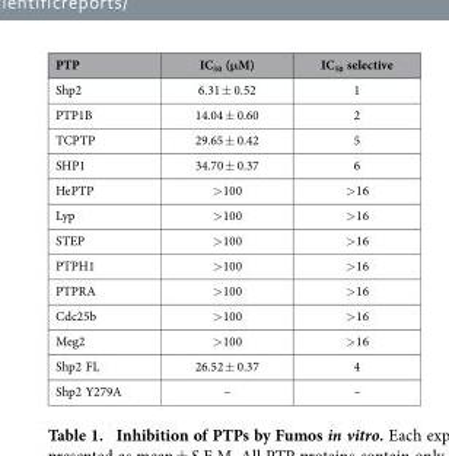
<table><thead><tr><td>PTP</td><td>IC<sub>50</sub> (μM)</td><td>IC<sub>50</sub> selective</td></tr></thead><tbody><tr><td>Shp2</td><td>6.31 ± 0.52</td><td>1</td></tr><tr><td>PTP1B</td><td>14.04 ± 0.60</td><td>2</td></tr><tr><td>TCPTP</td><td>29.65 ± 0.42</td><td>5</td></tr><tr><td>SHP1</td><td>34.70 ± 0.37</td><td>6</td></tr><tr><td>HePTP</td><td>&gt; 100</td><td>&gt; 16</td></tr><tr><td>Lyp</td><td>&gt; 100</td><td>&gt; 16</td></tr><tr><td>STEP</td><td>&gt; 100</td><td>&gt; 16</td></tr><tr><td>PTPH1</td><td>&gt; 100</td><td>&gt; 16</td></tr><tr><td>PTPRA</td><td>&gt; 100</td><td>&gt; 16</td></tr><tr><td>Cdc25b</td><td>&gt; 100</td><td>&gt; 16</td></tr><tr><td>Meg2</td><td>&gt; 100</td><td>&gt; 16</td></tr><tr><td>Shp2 FL</td><td>26.52 ± 0.37</td><td>4</td></tr><tr><td>Shp2 Y279A</td><td>–</td><td>–</td></tr></tbody></table>